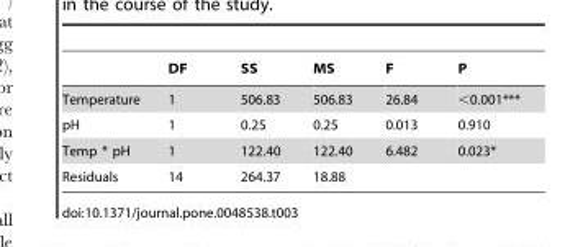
<table><thead><tr><td></td><td>DF</td><td>SS</td><td>MS</td><td>F</td><td>P</td></tr></thead><tbody><tr><td>Temperature</td><td>1</td><td>506.83</td><td>506.83</td><td>26.84</td><td>&lt;0.001***</td></tr><tr><td>pH</td><td>1</td><td>0.25</td><td>0.25</td><td>0.013</td><td>0.910</td></tr><tr><td>Temp * pH</td><td>1</td><td>122.40</td><td>122.40</td><td>6.482</td><td>0.023*</td></tr><tr><td>Residuals</td><td>14</td><td>264.37</td><td>18.88</td><td></td><td></td></tr></tbody></table>